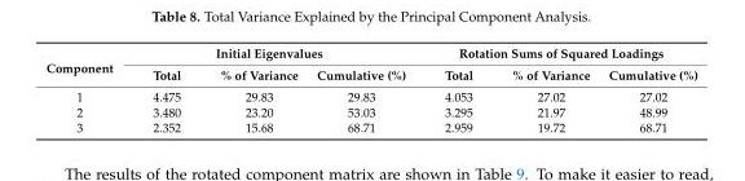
<table><thead><tr><td rowspan="2">Component</td><td colspan="3">Initial Eigenvalues</td><td colspan="3">Rotation Sums of Squared Loadings</td></tr><tr><td>Total</td><td>% of Variance</td><td>Cumulative (%)</td><td>Total</td><td>% of Variance</td><td>Cumulative (%)</td></tr></thead><tbody><tr><td>1</td><td>4.475</td><td>29.83</td><td>29.83</td><td>4.053</td><td>27.02</td><td>27.02</td></tr><tr><td>2</td><td>3.480</td><td>23.20</td><td>53.03</td><td>3.295</td><td>21.97</td><td>48.99</td></tr><tr><td>3</td><td>2.352</td><td>15.68</td><td>68.71</td><td>2.959</td><td>19.72</td><td>68.71</td></tr></tbody></table>